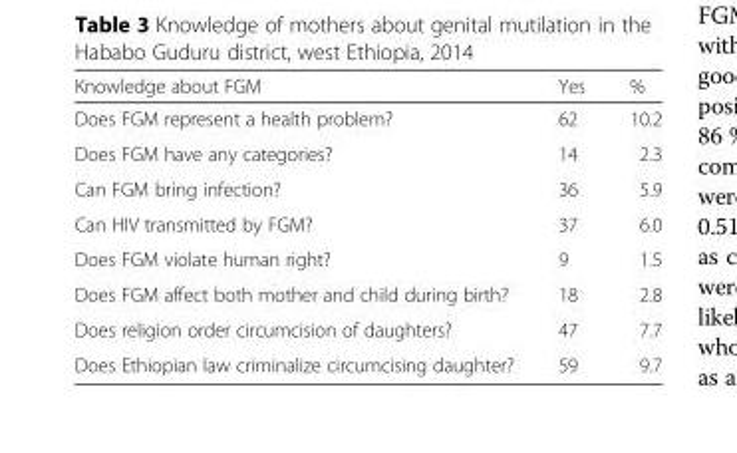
<table><thead><tr><td>Knowledge about FGM</td><td>Yes</td><td>%</td></tr></thead><tbody><tr><td>Does FGM represent a health problem?</td><td>62</td><td>10.2</td></tr><tr><td>Does FGM have any categories?</td><td>14</td><td>2.3</td></tr><tr><td>Can FGM bring infection?</td><td>36</td><td>5.9</td></tr><tr><td>Can HIV transmitted by FGM?</td><td>37</td><td>6.0</td></tr><tr><td>Does FGM violate human right?</td><td>9</td><td>1.5</td></tr><tr><td>Does FGM affect both mother and child during birth?</td><td>18</td><td>2.8</td></tr><tr><td>Does religion order circumcision of daughters?</td><td>47</td><td>7.7</td></tr><tr><td>Does Ethiopian law criminalize circumcising daughter?</td><td>59</td><td>9.7</td></tr></tbody></table>